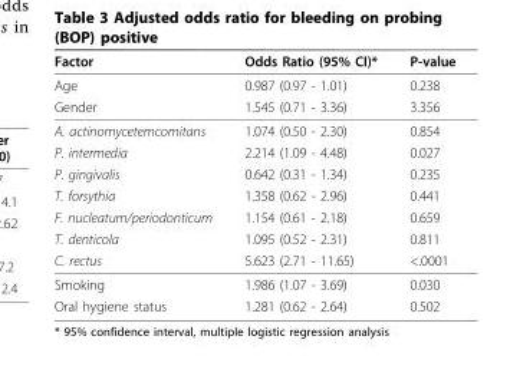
<table><thead><tr><td>Factor</td><td>Odds Ratio (95% CI)*</td><td>P-value</td></tr></thead><tbody><tr><td>Age</td><td>0.987 (0.97 - 1.01)</td><td>0.238</td></tr><tr><td>Gender</td><td>1.545 (0.71 - 3.36)</td><td>3.356</td></tr><tr><td>A. actinomycetemcomitans</td><td>1.074 (0.50 - 2.30)</td><td>0.854</td></tr><tr><td>P. intermedia</td><td>2.214 (1.09 - 4.48)</td><td>0.027</td></tr><tr><td>P. gingivalis</td><td>0.642 (0.31 - 1.34)</td><td>0.235</td></tr><tr><td>T. forsythia</td><td>1.358 (0.62 - 2.96)</td><td>0.441</td></tr><tr><td>F. nucleatum/periodonticum</td><td>1.154 (0.61 - 2.18)</td><td>0.659</td></tr><tr><td>T. denticola</td><td>1.095 (0.52 - 2.31)</td><td>0.811</td></tr><tr><td>C. rectus</td><td>5.623 (2.71 - 11.65)</td><td>&lt;.0001</td></tr><tr><td>Smoking</td><td>1.986 (1.07 - 3.69)</td><td>0.030</td></tr><tr><td>Oral hygiene status</td><td>1.281 (0.62 - 2.64)</td><td>0.502</td></tr></tbody></table>